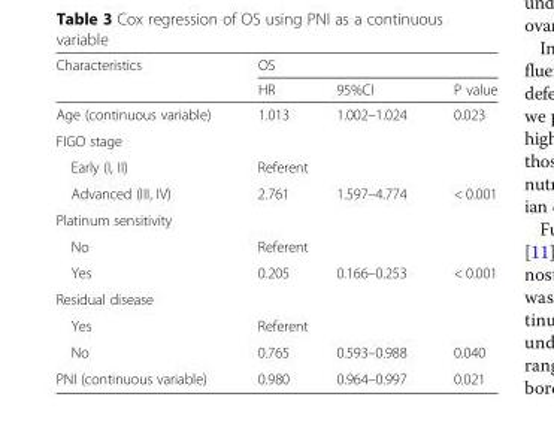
<table><thead><tr><td rowspan="2">Characteristics</td><td colspan="3">OS</td></tr><tr><td>HR</td><td>95%CI</td><td>P value</td></tr></thead><tbody><tr><td>Age (continuous variable)</td><td>1.013</td><td>1.002–1.024</td><td>0.023</td></tr><tr><td colspan="4">FIGO stage</td></tr><tr><td>Early (I, II)</td><td colspan="3">Referent</td></tr><tr><td>Advanced (III, IV)</td><td>2.761</td><td>1.597–4.774</td><td>&lt; 0.001</td></tr><tr><td colspan="4">Platinum sensitivity</td></tr><tr><td>No</td><td colspan="3">Referent</td></tr><tr><td>Yes</td><td>0.205</td><td>0.166–0.253</td><td>&lt; 0.001</td></tr><tr><td colspan="4">Residual disease</td></tr><tr><td>Yes</td><td colspan="3">Referent</td></tr><tr><td>No</td><td>0.765</td><td>0.593–0.988</td><td>0.040</td></tr><tr><td>PNI (continuous variable)</td><td>0.980</td><td>0.964–0.997</td><td>0.021</td></tr></tbody></table>